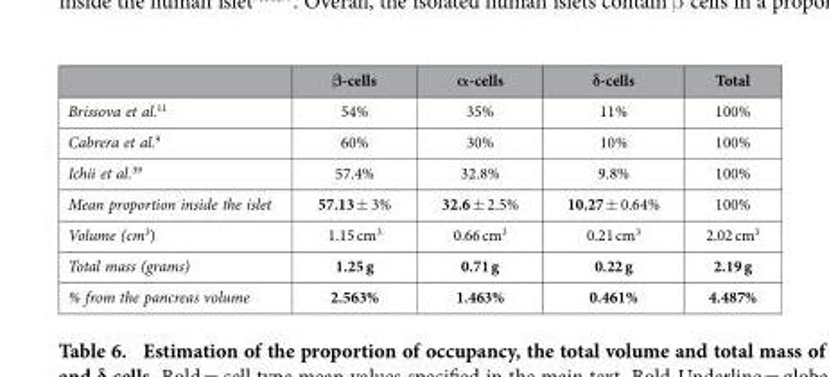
<table><thead><tr><td></td><td>β-cells</td><td>α-cells</td><td>δ-cells</td><td>Total</td></tr></thead><tbody><tr><td>Brissova et al.<sup>11</sup></td><td>54%</td><td>35%</td><td>11%</td><td>100%</td></tr><tr><td>Cabrera et al.<sup>9</sup></td><td>60%</td><td>30%</td><td>10%</td><td>100%</td></tr><tr><td>Ichii et al.<sup>39</sup></td><td>57.4%</td><td>32.8%</td><td>9.8%</td><td>100%</td></tr><tr><td>Mean proportion inside the islet</td><td>57.13 ± 3%</td><td>32.6 ± 2.5%</td><td>10.27 ± 0.64%</td><td>100%</td></tr><tr><td>Volume (cm<sup>3</sup>)</td><td>1.15 cm<sup>3</sup></td><td>0.66 cm<sup>3</sup></td><td>0.21 cm<sup>3</sup></td><td>2.02 cm<sup>3</sup></td></tr><tr><td>Total mass (grams)</td><td>1.25 g</td><td>0.71 g</td><td>0.22 g</td><td>2.19 g</td></tr><tr><td>% from the pancreas volume</td><td>2.563%</td><td>1.463%</td><td>0.461%</td><td>4.487%</td></tr></tbody></table>